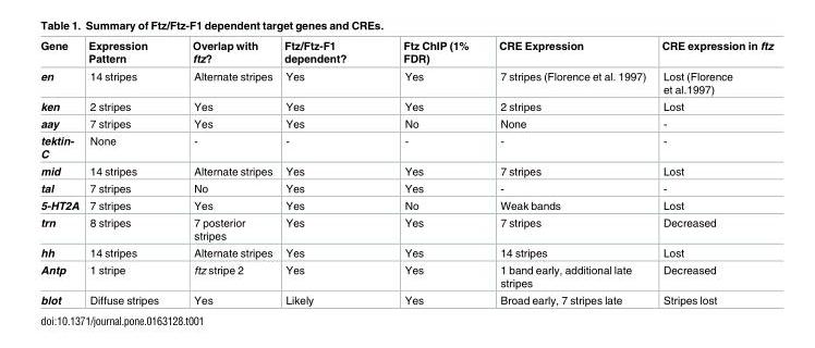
<table><thead><tr><td>Gene</td><td>Expression Pattern</td><td>Overlap with ftz?</td><td>Ftz/Ftz-F1 dependent?</td><td>Ftz ChIP (1% FDR)</td><td>CRE Expression</td><td>CRE expression in ftz</td></tr></thead><tbody><tr><td>en</td><td>14 stripes</td><td>Alternate stripes</td><td>Yes</td><td>Yes</td><td>7 stripes (Florence et al. 1997)</td><td>Lost (Florence et al.1997)</td></tr><tr><td>ken</td><td>2 stripes</td><td>Yes</td><td>Yes</td><td>Yes</td><td>2 stripes</td><td>Lost</td></tr><tr><td>aay</td><td>7 stripes</td><td>Yes</td><td>Yes</td><td>No</td><td>None</td><td>-</td></tr><tr><td>tektin- C</td><td>None</td><td>-</td><td>-</td><td>-</td><td>-</td><td>-</td></tr><tr><td>mid</td><td>14 stripes</td><td>Alternate stripes</td><td>Yes</td><td>Yes</td><td>7 stripes</td><td>Lost</td></tr><tr><td>tal</td><td>7 stripes</td><td>No</td><td>Yes</td><td>Yes</td><td>-</td><td>-</td></tr><tr><td>5-HT2A</td><td>7 stripes</td><td>Yes</td><td>Yes</td><td>No</td><td>Weak bands</td><td>Lost</td></tr><tr><td>trn</td><td>8 stripes</td><td>7 posterior stripes</td><td>Yes</td><td>Yes</td><td>7 stripes</td><td>Decreased</td></tr><tr><td>hh</td><td>14 stripes</td><td>Alternate stripes</td><td>Yes</td><td>Yes</td><td>14 stripes</td><td>Lost</td></tr><tr><td>Antp</td><td>1 stripe</td><td>ftz stripe 2</td><td>Yes</td><td>Yes</td><td>1 band early, additional late stripes</td><td>Decreased</td></tr><tr><td>blot</td><td>Diffuse stripes</td><td>Yes</td><td>Likely</td><td>Yes</td><td>Broad early, 7 stripes late</td><td>Stripes lost</td></tr></tbody></table>